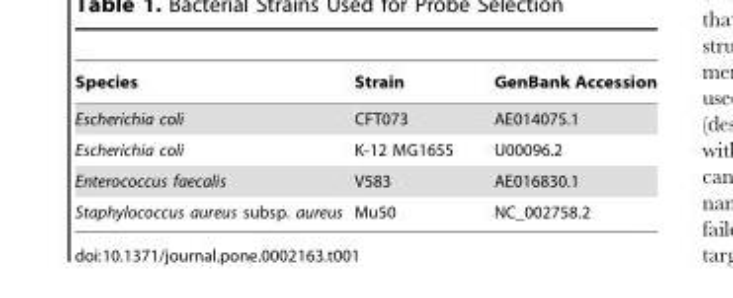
<table><thead><tr><td>Species</td><td>Strain</td><td>GenBank Accession</td></tr></thead><tbody><tr><td>Escherichia coli</td><td>CFT073</td><td>AE014075.1</td></tr><tr><td>Escherichia coli</td><td>K-12 MG1655</td><td>U00096.2</td></tr><tr><td>Enterococcus faecalis</td><td>V583</td><td>AE016830.1</td></tr><tr><td>Staphylococcus aureus subsp. aureus</td><td>Mu50</td><td>NC_002758.2</td></tr></tbody></table>